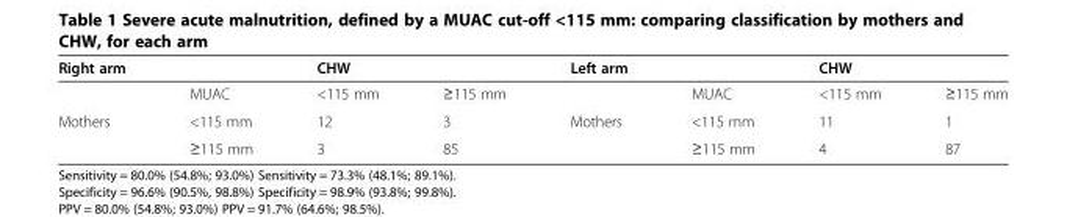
<table><thead><tr><td rowspan="2">Right arm</td><td rowspan="2">MUAC</td><td colspan="2">CHW</td><td rowspan="2">Left arm</td><td rowspan="2">MUAC</td><td colspan="2">CHW</td></tr><tr><td>&lt;115 mm</td><td>≥115 mm</td><td>&lt;115 mm</td><td>≥115 mm</td></tr></thead><tbody><tr><td rowspan="2">Mothers</td><td>&lt;115 mm</td><td>12</td><td>3</td><td>Mothers</td><td>&lt;115 mm</td><td>11</td><td>1</td></tr><tr><td>≥115 mm</td><td>3</td><td>85</td><td></td><td>≥115 mm</td><td>4</td><td>87</td></tr></tbody></table>